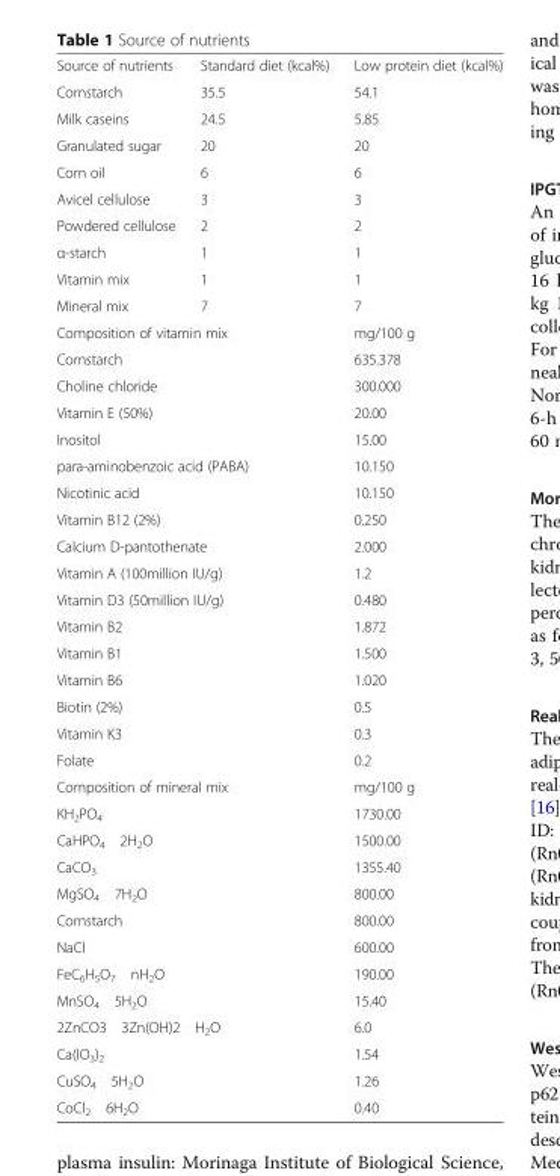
<table><tbody><tr><td>Source of nutrients</td><td>Standard diet (kcal%)</td><td>Low protein diet (kcal%)</td></tr><tr><td>Cornstarch</td><td>35.5</td><td>54.1</td></tr><tr><td>Milk caseins</td><td>24.5</td><td>5.85</td></tr><tr><td>Granulated sugar</td><td>20</td><td>20</td></tr><tr><td>Corn oil</td><td>6</td><td>6</td></tr><tr><td>Avicel cellulose</td><td>3</td><td>3</td></tr><tr><td>Powdered cellulose</td><td>2</td><td>2</td></tr><tr><td>α-starch</td><td>1</td><td>1</td></tr><tr><td>Vitamin mix</td><td>1</td><td>1</td></tr><tr><td>Mineral mix</td><td>7</td><td>7</td></tr><tr><td colspan="2">Composition of vitamin mix</td><td>mg/100 g</td></tr><tr><td colspan="2">Cornstarch</td><td>635.378</td></tr><tr><td colspan="2">Choline chloride</td><td>300.000</td></tr><tr><td colspan="2">Vitamin E (50%)</td><td>20.00</td></tr><tr><td colspan="2">Inositol</td><td>15.00</td></tr><tr><td colspan="2">para-aminobenzoic acid (PABA)</td><td>10.150</td></tr><tr><td colspan="2">Nicotinic acid</td><td>10.150</td></tr><tr><td colspan="2">Vitamin B12 (2%)</td><td>0.250</td></tr><tr><td colspan="2">Calcium D-pantothenate</td><td>2.000</td></tr><tr><td colspan="2">Vitamin A (100million IU/g)</td><td>1.2</td></tr><tr><td colspan="2">Vitamin D3 (50million IU/g)</td><td>0.480</td></tr><tr><td colspan="2">Vitamin B2</td><td>1.872</td></tr><tr><td colspan="2">Vitamin B1</td><td>1.500</td></tr><tr><td colspan="2">Vitamin B6</td><td>1.020</td></tr><tr><td colspan="2">Biotin (2%)</td><td>0.5</td></tr><tr><td colspan="2">Vitamin K3</td><td>0.3</td></tr><tr><td colspan="2">Folate</td><td>0.2</td></tr><tr><td colspan="2">Composition of mineral mix</td><td>mg/100 g</td></tr><tr><td colspan="2">KH<sub>2</sub>PO<sub>4</sub></td><td>1730.00</td></tr><tr><td colspan="2">CaHPO4 2H2O</td><td>1500.00</td></tr><tr><td colspan="2">CaCO<sub>3</sub></td><td>1355.40</td></tr><tr><td colspan="2">MgSO4 7H2O</td><td>800.00</td></tr><tr><td colspan="2">Cornstarch</td><td>800.00</td></tr><tr><td colspan="2">NaCl</td><td>600.00</td></tr><tr><td colspan="2">FeC6H5O7 nH2O</td><td>190.00</td></tr><tr><td colspan="2">MnSO4 5H2O</td><td>15.40</td></tr><tr><td colspan="2">2ZnCO3 3Zn(OH)2 H2O</td><td>6.0</td></tr><tr><td colspan="2">Ca(IO<sub>3</sub>)<sub>2</sub></td><td>1.54</td></tr><tr><td colspan="2">CuSO4 5H2O</td><td>1.26</td></tr><tr><td colspan="2">CoCl2 6H2O</td><td>0.40</td></tr></tbody></table>